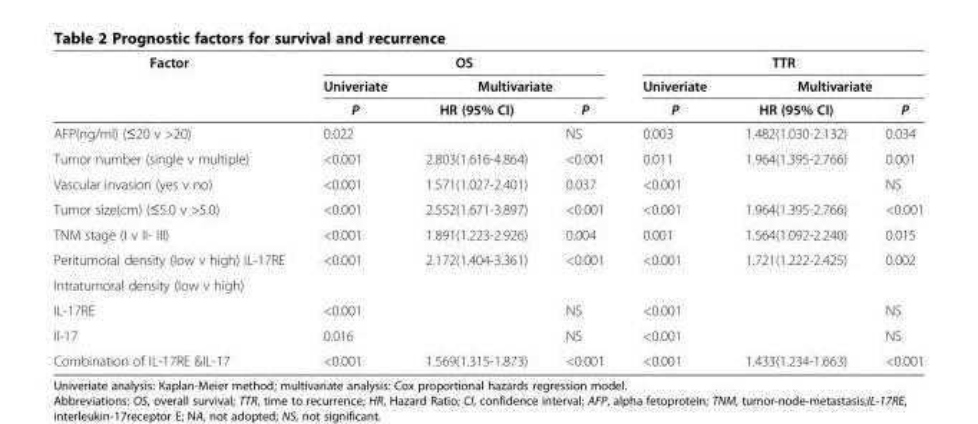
<table><thead><tr><td rowspan="3">Factor</td><td colspan="3">OS</td><td colspan="3">TTR</td></tr><tr><td rowspan="2">Univeriate P</td><td colspan="2">Multivariate</td><td rowspan="2">Univeriate P</td><td colspan="2">Multivariate</td></tr><tr><td>HR (95% CI)</td><td>P</td><td>HR (95% CI)</td><td>P</td></tr></thead><tbody><tr><td>AFP(ng/ml) (≤20 v &gt;20)</td><td>0.022</td><td></td><td>NS</td><td>0.003</td><td>1.482(1.030-2.132)</td><td>0.034</td></tr><tr><td>Tumor number (single v multiple)</td><td>&lt;0.001</td><td>2.803(1.616-4.864)</td><td>&lt;0.001</td><td>0.011</td><td>1.964(1.395-2.766)</td><td>0.001</td></tr><tr><td>Vascular invasion (yes v no)</td><td>&lt;0.001</td><td>1.571(1.027-2.401)</td><td>0.037</td><td>&lt;0.001</td><td></td><td>NS</td></tr><tr><td>Tumor size(cm) (≤5.0 v &gt;5.0)</td><td>&lt;0.001</td><td>2.552(1.671-3.897)</td><td>&lt;0.001</td><td>&lt;0.001</td><td>1.964(1.395-2.766)</td><td>&lt;0.001</td></tr><tr><td>TNM stage (I v II- III)</td><td>&lt;0.001</td><td>1.891(1.223-2.926)</td><td>0.004</td><td>0.001</td><td>1.564(1.092-2.240)</td><td>0.015</td></tr><tr><td>Peritumoral density (low v high) IL-17RE</td><td>&lt;0.001</td><td>2.172(1.404-3.361)</td><td>&lt;0.001</td><td>&lt;0.001</td><td>1.721(1.222-2.425)</td><td>0.002</td></tr><tr><td colspan="7">Intratumoral density (low v high)</td></tr><tr><td>IL-17RE</td><td>&lt;0.001</td><td></td><td>NS</td><td>&lt;0.001</td><td></td><td>NS</td></tr><tr><td>Il-17</td><td>0.016</td><td></td><td>NS</td><td>&lt;0.001</td><td></td><td>NS</td></tr><tr><td>Combination of IL-17RE &amp;IL-17</td><td>&lt;0.001</td><td>1.569(1.315-1.873)</td><td>&lt;0.001</td><td>&lt;0.001</td><td>1.433(1.234-1.663)</td><td>&lt;0.001</td></tr></tbody></table>